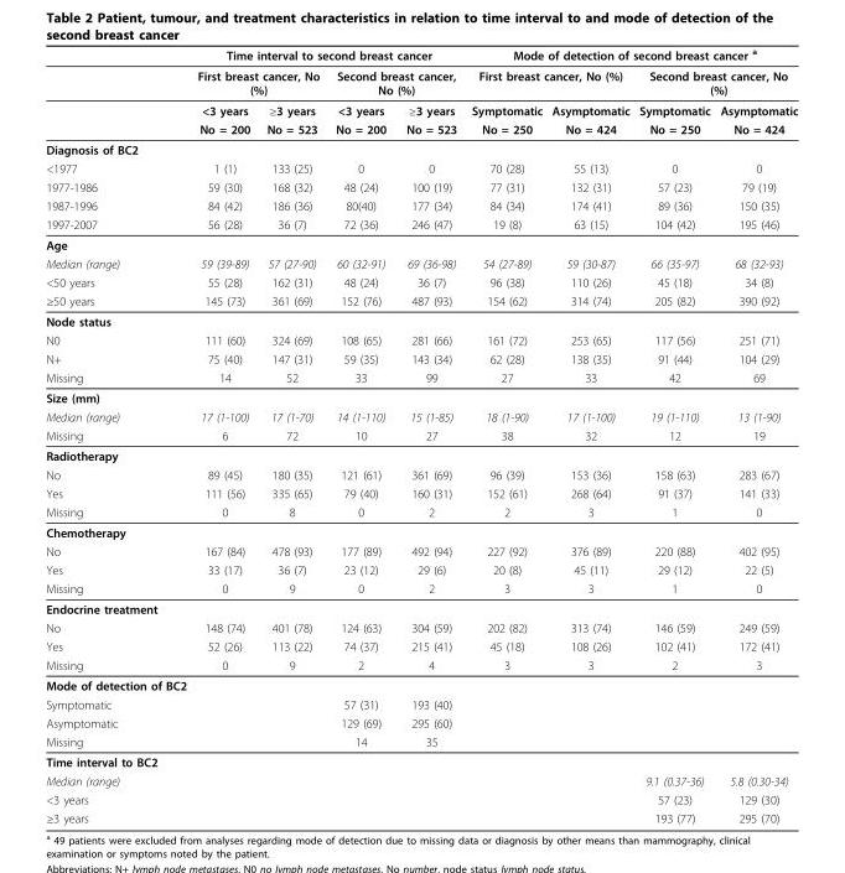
<table><thead><tr><td rowspan="3"></td><td colspan="4">Time interval to second breast cancer</td><td colspan="4">Mode of detection of second breast cancer <sup>a</sup></td></tr><tr><td colspan="2">First breast cancer, No (%)</td><td colspan="2">Second breast cancer, No (%)</td><td colspan="2">First breast cancer, No (%)</td><td colspan="2">Second breast cancer, No (%)</td></tr><tr><td>&lt;3 years</td><td>≥3 years</td><td>&lt;3 years</td><td>≥3 years</td><td>Symptomatic</td><td>Asymptomatic</td><td>Symptomatic</td><td>Asymptomatic</td></tr></thead><tbody><tr><td></td><td>No = 200</td><td>No = 523</td><td>No = 200</td><td>No = 523</td><td>No = 250</td><td>No = 424</td><td>No = 250</td><td>No = 424</td></tr><tr><td colspan="9">Diagnosis of BC2</td></tr><tr><td>&lt;1977</td><td>1 (1)</td><td>133 (25)</td><td>0</td><td>0</td><td>70 (28)</td><td>55 (13)</td><td>0</td><td>0</td></tr><tr><td>1977-1986</td><td>59 (30)</td><td>168 (32)</td><td>48 (24)</td><td>100 (19)</td><td>77 (31)</td><td>132 (31)</td><td>57 (23)</td><td>79 (19)</td></tr><tr><td>1987-1996</td><td>84 (42)</td><td>186 (36)</td><td>80(40)</td><td>177 (34)</td><td>84 (34)</td><td>174 (41)</td><td>89 (36)</td><td>150 (35)</td></tr><tr><td>1997-2007</td><td>56 (28)</td><td>36 (7)</td><td>72 (36)</td><td>246 (47)</td><td>19 (8)</td><td>63 (15)</td><td>104 (42)</td><td>195 (46)</td></tr><tr><td colspan="9">Age</td></tr><tr><td>Median (range)</td><td>59 (39-89)</td><td>57 (27-90)</td><td>60 (32-91)</td><td>69 (36-98)</td><td>54 (27-89)</td><td>59 (30-87)</td><td>66 (35-97)</td><td>68 (32-93)</td></tr><tr><td>&lt;50 years</td><td>55 (28)</td><td>162 (31)</td><td>48 (24)</td><td>36 (7)</td><td>96 (38)</td><td>110 (26)</td><td>45 (18)</td><td>34 (8)</td></tr><tr><td>≥50 years</td><td>145 (73)</td><td>361 (69)</td><td>152 (76)</td><td>487 (93)</td><td>154 (62)</td><td>314 (74)</td><td>205 (82)</td><td>390 (92)</td></tr><tr><td colspan="9">Node status</td></tr><tr><td>N0</td><td>111 (60)</td><td>324 (69)</td><td>108 (65)</td><td>281 (66)</td><td>161 (72)</td><td>253 (65)</td><td>117 (56)</td><td>251 (71)</td></tr><tr><td>N+</td><td>75 (40)</td><td>147 (31)</td><td>59 (35)</td><td>143 (34)</td><td>62 (28)</td><td>138 (35)</td><td>91 (44)</td><td>104 (29)</td></tr><tr><td>Missing</td><td>14</td><td>52</td><td>33</td><td>99</td><td>27</td><td>33</td><td>42</td><td>69</td></tr><tr><td colspan="9">Size (mm)</td></tr><tr><td>Median (range)</td><td>17 (1-100)</td><td>17 (1-70)</td><td>14 (1-110)</td><td>15 (1-85)</td><td>18 (1-90)</td><td>17 (1-100)</td><td>19 (1-110)</td><td>13 (1-90)</td></tr><tr><td>Missing</td><td>6</td><td>72</td><td>10</td><td>27</td><td>38</td><td>32</td><td>12</td><td>19</td></tr><tr><td colspan="9">Radiotherapy</td></tr><tr><td>No</td><td>89 (45)</td><td>180 (35)</td><td>121 (61)</td><td>361 (69)</td><td>96 (39)</td><td>153 (36)</td><td>158 (63)</td><td>283 (67)</td></tr><tr><td>Yes</td><td>111 (56)</td><td>335 (65)</td><td>79 (40)</td><td>160 (31)</td><td>152 (61)</td><td>268 (64)</td><td>91 (37)</td><td>141 (33)</td></tr><tr><td>Missing</td><td>0</td><td>8</td><td>0</td><td>2</td><td>2</td><td>3</td><td>1</td><td>0</td></tr><tr><td colspan="9">Chemotherapy</td></tr><tr><td>No</td><td>167 (84)</td><td>478 (93)</td><td>177 (89)</td><td>492 (94)</td><td>227 (92)</td><td>376 (89)</td><td>220 (88)</td><td>402 (95)</td></tr><tr><td>Yes</td><td>33 (17)</td><td>36 (7)</td><td>23 (12)</td><td>29 (6)</td><td>20 (8)</td><td>45 (11)</td><td>29 (12)</td><td>22 (5)</td></tr><tr><td>Missing</td><td>0</td><td>9</td><td>0</td><td>2</td><td>3</td><td>3</td><td>1</td><td>0</td></tr><tr><td colspan="9">Endocrine treatment</td></tr><tr><td>No</td><td>148 (74)</td><td>401 (78)</td><td>124 (63)</td><td>304 (59)</td><td>202 (82)</td><td>313 (74)</td><td>146 (59)</td><td>249 (59)</td></tr><tr><td>Yes</td><td>52 (26)</td><td>113 (22)</td><td>74 (37)</td><td>215 (41)</td><td>45 (18)</td><td>108 (26)</td><td>102 (41)</td><td>172 (41)</td></tr><tr><td>Missing</td><td>0</td><td>9</td><td>2</td><td>4</td><td>3</td><td>3</td><td>2</td><td>3</td></tr><tr><td colspan="9">Mode of detection of BC2</td></tr><tr><td>Symptomatic</td><td></td><td></td><td>57 (31)</td><td>193 (40)</td><td></td><td></td><td></td><td></td></tr><tr><td>Asymptomatic</td><td></td><td></td><td>129 (69)</td><td>295 (60)</td><td></td><td></td><td></td><td></td></tr><tr><td>Missing</td><td></td><td></td><td>14</td><td>35</td><td></td><td></td><td></td><td></td></tr><tr><td colspan="9">Time interval to BC2</td></tr><tr><td>Median (range)</td><td></td><td></td><td></td><td></td><td></td><td></td><td>9.1 (0.37-36)</td><td>5.8 (0.30-34)</td></tr><tr><td>&lt;3 years</td><td></td><td></td><td></td><td></td><td></td><td></td><td>57 (23)</td><td>129 (30)</td></tr><tr><td>≥3 years</td><td></td><td></td><td></td><td></td><td></td><td></td><td>193 (77)</td><td>295 (70)</td></tr></tbody></table>